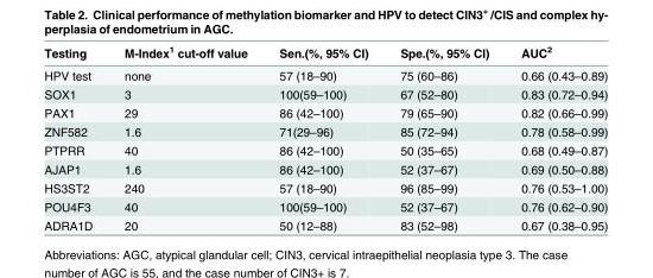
<table><thead><tr><td>Testing</td><td>M-Index<sup>1</sup> cut-off value</td><td>Sen.(%, 95% CI)</td><td>Spe.(%, 95% CI)</td><td>AUC<sup>2</sup></td></tr></thead><tbody><tr><td>HPV test</td><td>none</td><td>57 (18–90)</td><td>75 (60–86)</td><td>0.66 (0.43–0.89)</td></tr><tr><td>SOX1</td><td>3</td><td>100(59–100)</td><td>67 (52–80)</td><td>0.83 (0.72–0.94)</td></tr><tr><td>PAX1</td><td>29</td><td>86 (42–100)</td><td>79 (65–90)</td><td>0.82 (0.66–0.99)</td></tr><tr><td>ZNF582</td><td>1.6</td><td>71(29–96)</td><td>85 (72–94)</td><td>0.78 (0.58–0.99)</td></tr><tr><td>PTPRR</td><td>40</td><td>86 (42–100)</td><td>50 (35–65)</td><td>0.68 (0.49–0.87)</td></tr><tr><td>AJAP1</td><td>1.6</td><td>86 (42–100)</td><td>52 (37–67)</td><td>0.69 (0.50–0.88)</td></tr><tr><td>HS3ST2</td><td>240</td><td>57 (18–90)</td><td>96 (85–99)</td><td>0.76 (0.53–1.00)</td></tr><tr><td>POU4F3</td><td>40</td><td>100(59–100)</td><td>52 (37–67)</td><td>0.76 (0.62–0.90)</td></tr><tr><td>ADRA1D</td><td>20</td><td>50 (12–88)</td><td>83 (52–98)</td><td>0.67 (0.38–0.95)</td></tr></tbody></table>